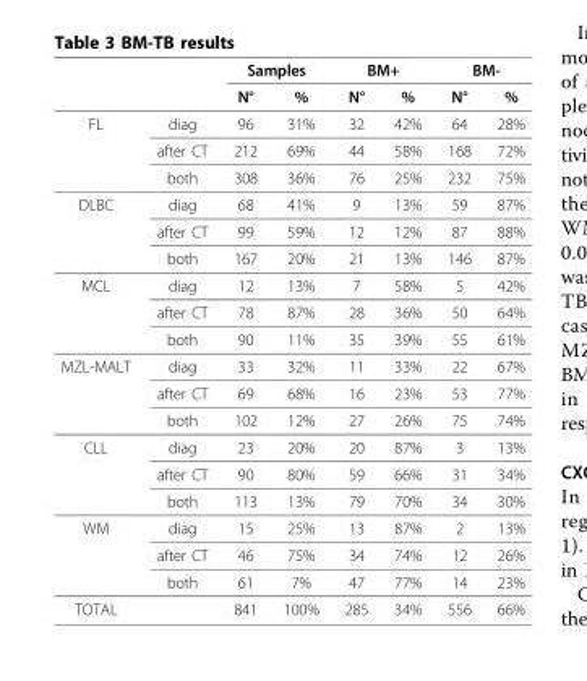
<table><thead><tr><td rowspan="2"></td><td rowspan="2"></td><td colspan="2">Samples</td><td colspan="2">BM+</td><td colspan="2">BM-</td></tr><tr><td>N°</td><td>%</td><td>N°</td><td>%</td><td>N°</td><td>%</td></tr></thead><tbody><tr><td rowspan="3">FL</td><td>diag</td><td>96</td><td>31%</td><td>32</td><td>42%</td><td>64</td><td>28%</td></tr><tr><td>after CT</td><td>212</td><td>69%</td><td>44</td><td>58%</td><td>168</td><td>72%</td></tr><tr><td>both</td><td>308</td><td>36%</td><td>76</td><td>25%</td><td>232</td><td>75%</td></tr><tr><td rowspan="3">DLBC</td><td>diag</td><td>68</td><td>41%</td><td>9</td><td>13%</td><td>59</td><td>87%</td></tr><tr><td>after CT</td><td>99</td><td>59%</td><td>12</td><td>12%</td><td>87</td><td>88%</td></tr><tr><td>both</td><td>167</td><td>20%</td><td>21</td><td>13%</td><td>146</td><td>87%</td></tr><tr><td rowspan="3">MCL</td><td>diag</td><td>12</td><td>13%</td><td>7</td><td>58%</td><td>5</td><td>42%</td></tr><tr><td>after CT</td><td>78</td><td>87%</td><td>28</td><td>36%</td><td>50</td><td>64%</td></tr><tr><td>both</td><td>90</td><td>11%</td><td>35</td><td>39%</td><td>55</td><td>61%</td></tr><tr><td rowspan="3">MZL-MALT</td><td>diag</td><td>33</td><td>32%</td><td>11</td><td>33%</td><td>22</td><td>67%</td></tr><tr><td>after CT</td><td>69</td><td>68%</td><td>16</td><td>23%</td><td>53</td><td>77%</td></tr><tr><td>both</td><td>102</td><td>12%</td><td>27</td><td>26%</td><td>75</td><td>74%</td></tr><tr><td rowspan="3">CLL</td><td>diag</td><td>23</td><td>20%</td><td>20</td><td>87%</td><td>3</td><td>13%</td></tr><tr><td>after CT</td><td>90</td><td>80%</td><td>59</td><td>66%</td><td>31</td><td>34%</td></tr><tr><td>both</td><td>113</td><td>13%</td><td>79</td><td>70%</td><td>34</td><td>30%</td></tr><tr><td rowspan="3">WM</td><td>diag</td><td>15</td><td>25%</td><td>13</td><td>87%</td><td>2</td><td>13%</td></tr><tr><td>after CT</td><td>46</td><td>75%</td><td>34</td><td>74%</td><td>12</td><td>26%</td></tr><tr><td>both</td><td>61</td><td>7%</td><td>47</td><td>77%</td><td>14</td><td>23%</td></tr><tr><td>TOTAL</td><td></td><td>841</td><td>100%</td><td>285</td><td>34%</td><td>556</td><td>66%</td></tr></tbody></table>